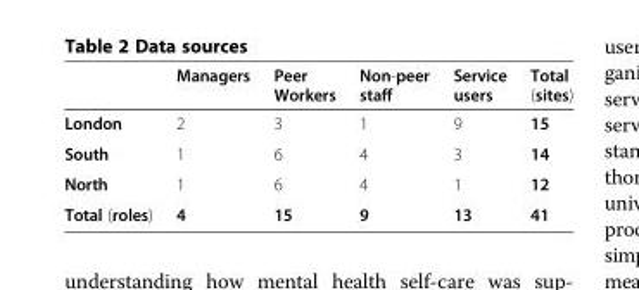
<table><thead><tr><td></td><td>Managers</td><td>Peer Workers</td><td>Non-peer staff</td><td>Service users</td><td>Total (sites)</td></tr></thead><tbody><tr><td>London</td><td>2</td><td>3</td><td>1</td><td>9</td><td>15</td></tr><tr><td>South</td><td>1</td><td>6</td><td>4</td><td>3</td><td>14</td></tr><tr><td>North</td><td>1</td><td>6</td><td>4</td><td>1</td><td>12</td></tr><tr><td>Total (roles)</td><td>4</td><td>15</td><td>9</td><td>13</td><td>41</td></tr></tbody></table>